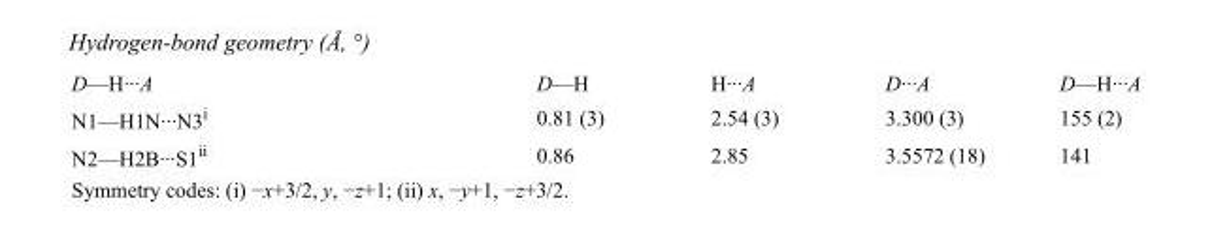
<table><tbody><tr><td>D—H···A</td><td>D—H</td><td>H···A</td><td>D···A</td><td>D—H···A</td></tr><tr><td>N1—H1N···N3<sup>i</sup></td><td>0.81 (3)</td><td>2.54 (3)</td><td>3.300 (3)</td><td>155 (2)</td></tr><tr><td>N2—H2B···S1<sup>ii</sup></td><td>0.86</td><td>2.85</td><td>3.5572 (18)</td><td>141</td></tr></tbody></table>